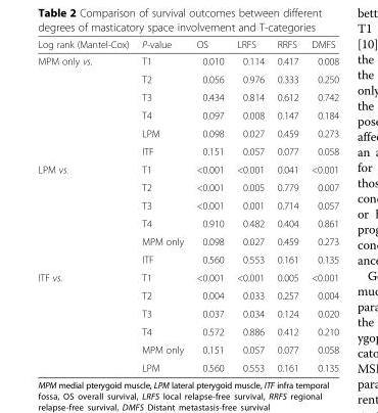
<table><thead><tr><td>Log rank (Mantel-Cox)</td><td>P-value</td><td>OS</td><td>LRFS</td><td>RRFS</td><td>DMFS</td></tr></thead><tbody><tr><td rowspan="6">MPM only vs.</td><td>T1</td><td>0.010</td><td>0.114</td><td>0.417</td><td>0.008</td></tr><tr><td>T2</td><td>0.056</td><td>0.976</td><td>0.333</td><td>0.250</td></tr><tr><td>T3</td><td>0.434</td><td>0.814</td><td>0.612</td><td>0.742</td></tr><tr><td>T4</td><td>0.097</td><td>0.008</td><td>0.147</td><td>0.184</td></tr><tr><td>LPM</td><td>0.098</td><td>0.027</td><td>0.459</td><td>0.273</td></tr><tr><td>ITF</td><td>0.151</td><td>0.057</td><td>0.077</td><td>0.058</td></tr><tr><td rowspan="6">LPM vs.</td><td>T1</td><td>&lt;0.001</td><td>&lt;0.001</td><td>0.041</td><td>&lt;0.001</td></tr><tr><td>T2</td><td>&lt;0.001</td><td>0.005</td><td>0.779</td><td>0.007</td></tr><tr><td>T3</td><td>&lt;0.001</td><td>0.001</td><td>0.714</td><td>0.057</td></tr><tr><td>T4</td><td>0.910</td><td>0.482</td><td>0.404</td><td>0.861</td></tr><tr><td>MPM only</td><td>0.098</td><td>0.027</td><td>0.459</td><td>0.273</td></tr><tr><td>ITF</td><td>0.560</td><td>0.553</td><td>0.161</td><td>0.135</td></tr><tr><td rowspan="6">ITF vs.</td><td>T1</td><td>&lt;0.001</td><td>&lt;0.001</td><td>0.005</td><td>&lt;0.001</td></tr><tr><td>T2</td><td>0.004</td><td>0.033</td><td>0.257</td><td>0.004</td></tr><tr><td>T3</td><td>0.037</td><td>0.034</td><td>0.124</td><td>0.020</td></tr><tr><td>T4</td><td>0.572</td><td>0.886</td><td>0.412</td><td>0.210</td></tr><tr><td>MPM only</td><td>0.151</td><td>0.057</td><td>0.077</td><td>0.058</td></tr><tr><td>LPM</td><td>0.560</td><td>0.553</td><td>0.161</td><td>0.135</td></tr></tbody></table>